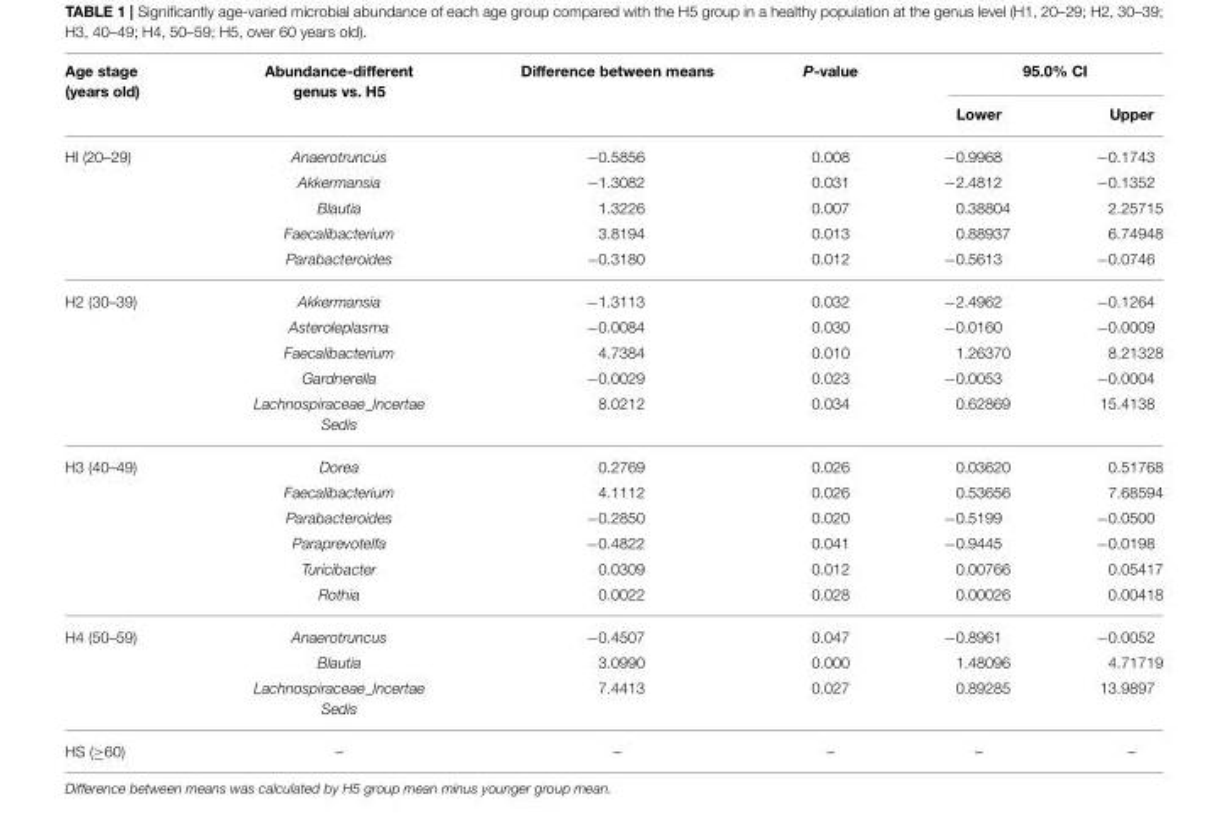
<table><thead><tr><td rowspan="2">Age stage (years old)</td><td rowspan="2">Abundance-different genus vs. H5</td><td rowspan="2">Difference between means</td><td rowspan="2">P-value</td><td colspan="2">95.0% CI</td></tr><tr><td>Lower</td><td>Upper</td></tr></thead><tbody><tr><td rowspan="5">Hl (20–29)</td><td>Anaerotruncus</td><td>−0.5856</td><td>0.008</td><td>−0.9968</td><td>−0.1743</td></tr><tr><td>Akkermansia</td><td>−1.3082</td><td>0.031</td><td>−2.4812</td><td>−0.1352</td></tr><tr><td>Blautia</td><td>1.3226</td><td>0.007</td><td>0.38804</td><td>2.25715</td></tr><tr><td>Faecalibacterium</td><td>3.8194</td><td>0.013</td><td>0.88937</td><td>6.74948</td></tr><tr><td>Parabacteroides</td><td>−0.3180</td><td>0.012</td><td>−0.5613</td><td>−0.0746</td></tr><tr><td rowspan="5">H2 (30–39)</td><td>Akkermansia</td><td>−1.3113</td><td>0.032</td><td>−2.4962</td><td>−0.1264</td></tr><tr><td>Asteroleplasma</td><td>−0.0084</td><td>0.030</td><td>−0.0160</td><td>−0.0009</td></tr><tr><td>Faecalibacterium</td><td>4.7384</td><td>0.010</td><td>1.26370</td><td>8.21328</td></tr><tr><td>Gardnerella</td><td>−0.0029</td><td>0.023</td><td>−0.0053</td><td>−0.0004</td></tr><tr><td>Lachnospiraceae_Incertae Sedis</td><td>8.0212</td><td>0.034</td><td>0.62869</td><td>15.4138</td></tr><tr><td rowspan="6">H3 (40–49)</td><td>Dorea</td><td>0.2769</td><td>0.026</td><td>0.03620</td><td>0.51768</td></tr><tr><td>Faecalibacterium</td><td>4.1112</td><td>0.026</td><td>0.53656</td><td>7.68594</td></tr><tr><td>Parabacteroides</td><td>−0.2850</td><td>0.020</td><td>−0.5199</td><td>−0.0500</td></tr><tr><td>Paraprevotelfa</td><td>−0.4822</td><td>0.041</td><td>−0.9445</td><td>−0.0198</td></tr><tr><td>Turicibacter</td><td>0.0309</td><td>0.012</td><td>0.00766</td><td>0.05417</td></tr><tr><td>Rothia</td><td>0.0022</td><td>0.028</td><td>0.00026</td><td>0.00418</td></tr><tr><td rowspan="3">H4 (50–59)</td><td>Anaerotruncus</td><td>−0.4507</td><td>0.047</td><td>−0.8961</td><td>−0.0052</td></tr><tr><td>Blautia</td><td>3.0990</td><td>0.000</td><td>1.48096</td><td>4.71719</td></tr><tr><td>Lachnospiraceae_Incertae Sedis</td><td>7.4413</td><td>0.027</td><td>0.89285</td><td>13.9897</td></tr><tr><td>HS (≥60)</td><td>–</td><td>–</td><td>–</td><td>–</td><td>–</td></tr></tbody></table>